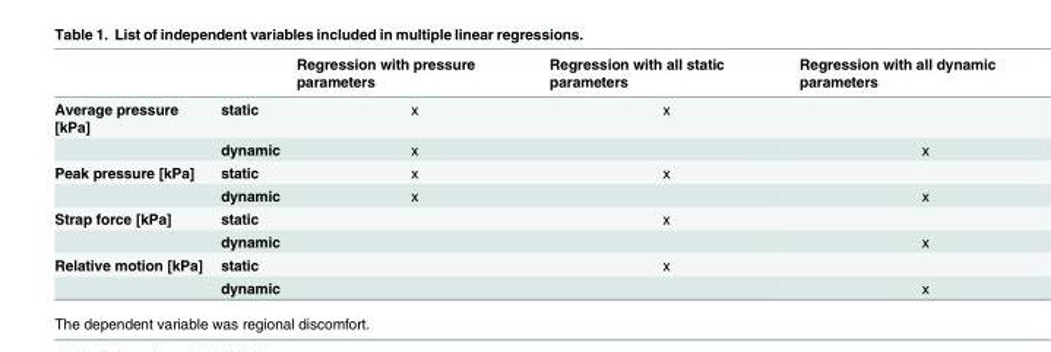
<table><thead><tr><td></td><td></td><td>Regression with pressure parameters</td><td>Regression with all static parameters</td><td>Regression with all dynamic parameters</td></tr></thead><tbody><tr><td rowspan="2">Average pressure [kPa]</td><td>static</td><td>x</td><td>x</td><td></td></tr><tr><td>dynamic</td><td>x</td><td></td><td>x</td></tr><tr><td rowspan="2">Peak pressure [kPa]</td><td>static</td><td>x</td><td>x</td><td></td></tr><tr><td>dynamic</td><td>x</td><td></td><td>x</td></tr><tr><td rowspan="2">Strap force [kPa]</td><td>static</td><td></td><td>x</td><td></td></tr><tr><td>dynamic</td><td></td><td></td><td>x</td></tr><tr><td rowspan="2">Relative motion [kPa]</td><td>static</td><td></td><td>x</td><td></td></tr><tr><td>dynamic</td><td></td><td></td><td>x</td></tr></tbody></table>